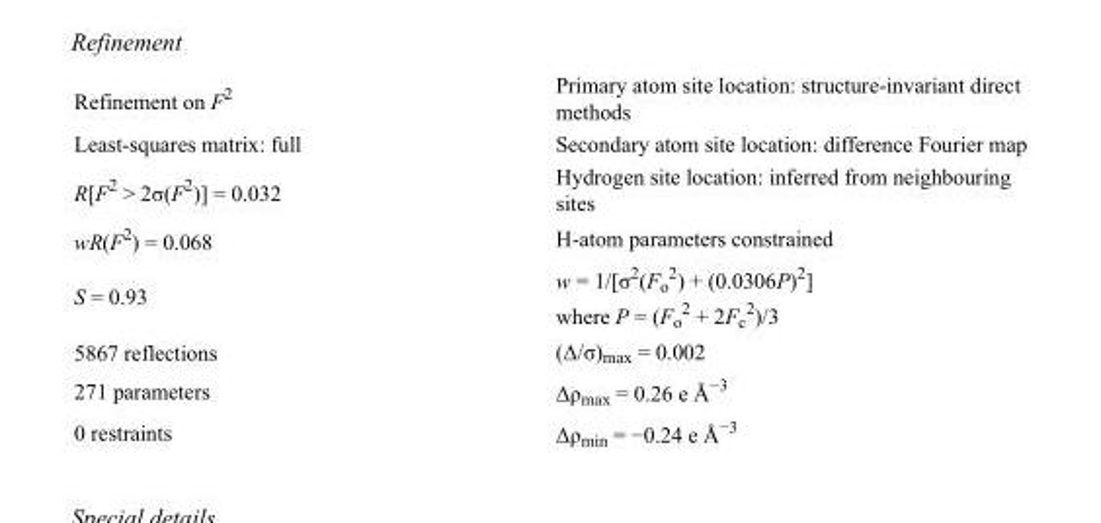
<table><tbody><tr><td>Refinement on F<sup>2</sup></td><td>Primary atom site location: structure-invariant direct methods</td></tr><tr><td>Least-squares matrix: full</td><td>Secondary atom site location: difference Fourier map</td></tr><tr><td>R[F<sup>2</sup> &gt; 2σ(F<sup>2</sup>)] = 0.032</td><td>Hydrogen site location: inferred from neighbouring sites</td></tr><tr><td>wR(F<sup>2</sup>) = 0.068</td><td>H-atom parameters constrained</td></tr><tr><td>S = 0.93</td><td>w = 1/[σ<sup>2</sup>(F<sub>o</sub> <sup>2</sup>) + (0.0306P)<sup>2</sup>] where P = (F<sub>o</sub> <sup>2</sup> + 2F<sub>c</sub> <sup>2</sup>)/3</td></tr><tr><td>5867 reflections</td><td>(Δ/σ)<sub>max</sub> = 0.002</td></tr><tr><td>271 parameters</td><td>Δρ<sub>max</sub> = 0.26 e Å<sup>−3</sup></td></tr><tr><td>0 restraints</td><td>Δρ<sub>min</sub> = −0.24 e Å<sup>−3</sup></td></tr></tbody></table>